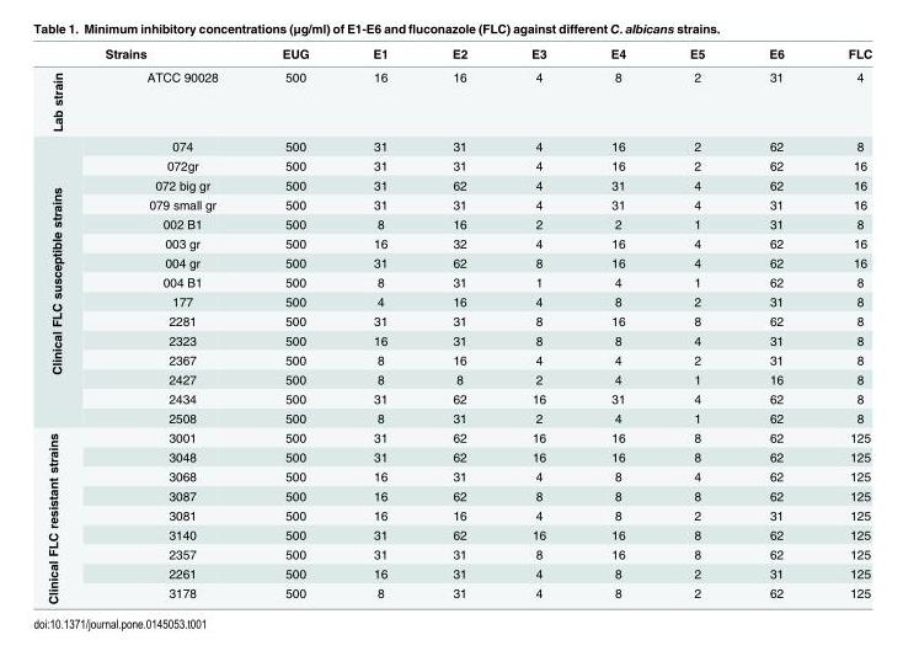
<table><thead><tr><td colspan="2">Strains</td><td rowspan="2">EUG 500</td><td rowspan="2">E1 16</td><td rowspan="2">E2 16</td><td rowspan="2">E3 4</td><td rowspan="2">E4 8</td><td rowspan="2">E5 2</td><td rowspan="2">E6 31</td><td rowspan="2">FLC 4</td></tr><tr><td>Lab strain</td><td>ATCC 90028</td></tr></thead><tbody><tr><td rowspan="15">Clinical FLC susceptible strains</td><td>074</td><td>500</td><td>31</td><td>31</td><td>4</td><td>16</td><td>2</td><td>62</td><td>8</td></tr><tr><td>072gr</td><td>500</td><td>31</td><td>31</td><td>4</td><td>16</td><td>2</td><td>62</td><td>16</td></tr><tr><td>072 big gr</td><td>500</td><td>31</td><td>62</td><td>4</td><td>31</td><td>4</td><td>62</td><td>16</td></tr><tr><td>079 small gr</td><td>500</td><td>31</td><td>31</td><td>4</td><td>31</td><td>4</td><td>31</td><td>16</td></tr><tr><td>002 B1</td><td>500</td><td>8</td><td>16</td><td>2</td><td>2</td><td>1</td><td>31</td><td>8</td></tr><tr><td>003 gr</td><td>500</td><td>16</td><td>32</td><td>4</td><td>16</td><td>4</td><td>62</td><td>16</td></tr><tr><td>004 gr</td><td>500</td><td>31</td><td>62</td><td>8</td><td>16</td><td>4</td><td>62</td><td>16</td></tr><tr><td>004 B1</td><td>500</td><td>8</td><td>31</td><td>1</td><td>4</td><td>1</td><td>62</td><td>8</td></tr><tr><td>177</td><td>500</td><td>4</td><td>16</td><td>4</td><td>8</td><td>2</td><td>31</td><td>8</td></tr><tr><td>2281</td><td>500</td><td>31</td><td>31</td><td>8</td><td>16</td><td>8</td><td>62</td><td>8</td></tr><tr><td>2323</td><td>500</td><td>16</td><td>31</td><td>8</td><td>8</td><td>4</td><td>31</td><td>8</td></tr><tr><td>2367</td><td>500</td><td>8</td><td>16</td><td>4</td><td>4</td><td>2</td><td>31</td><td>8</td></tr><tr><td>2427</td><td>500</td><td>8</td><td>8</td><td>2</td><td>4</td><td>1</td><td>16</td><td>8</td></tr><tr><td>2434</td><td>500</td><td>31</td><td>62</td><td>16</td><td>31</td><td>4</td><td>62</td><td>8</td></tr><tr><td>2508</td><td>500</td><td>8</td><td>31</td><td>2</td><td>4</td><td>1</td><td>62</td><td>8</td></tr><tr><td rowspan="9">Clinical FLC resistant strains</td><td>3001</td><td>500</td><td>31</td><td>62</td><td>16</td><td>16</td><td>8</td><td>62</td><td>125</td></tr><tr><td>3048</td><td>500</td><td>31</td><td>62</td><td>16</td><td>16</td><td>8</td><td>62</td><td>125</td></tr><tr><td>3068</td><td>500</td><td>16</td><td>31</td><td>4</td><td>8</td><td>4</td><td>62</td><td>125</td></tr><tr><td>3087</td><td>500</td><td>16</td><td>62</td><td>8</td><td>8</td><td>8</td><td>62</td><td>125</td></tr><tr><td>3081</td><td>500</td><td>16</td><td>16</td><td>4</td><td>8</td><td>2</td><td>31</td><td>125</td></tr><tr><td>3140</td><td>500</td><td>31</td><td>62</td><td>16</td><td>16</td><td>8</td><td>62</td><td>125</td></tr><tr><td>2357</td><td>500</td><td>31</td><td>31</td><td>8</td><td>16</td><td>8</td><td>62</td><td>125</td></tr><tr><td>2261</td><td>500</td><td>16</td><td>31</td><td>4</td><td>8</td><td>2</td><td>31</td><td>125</td></tr><tr><td>3178</td><td>500</td><td>8</td><td>31</td><td>4</td><td>8</td><td>2</td><td>62</td><td>125</td></tr></tbody></table>